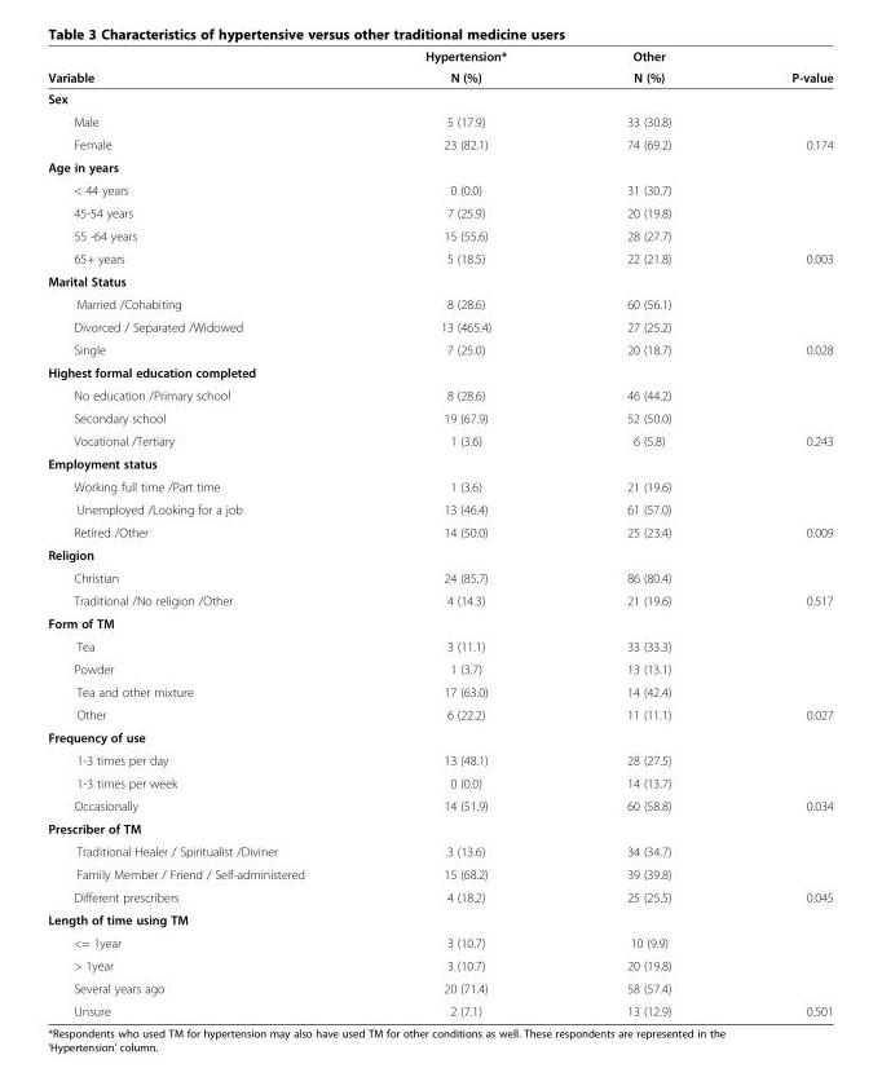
<table><thead><tr><td rowspan="2">Variable</td><td rowspan="2">Hypertension* N (%)</td><td rowspan="2">Other N (%)</td><td rowspan="2">P-value</td></tr><tr></tr></thead><tbody><tr><td colspan="4">Sex</td></tr><tr><td>Male</td><td>5 (17.9)</td><td>33 (30.8)</td><td></td></tr><tr><td>Female</td><td>23 (82.1)</td><td>74 (69.2)</td><td>0.174</td></tr><tr><td colspan="4">Age in years</td></tr><tr><td>&lt; 44 years</td><td>0 (0.0)</td><td>31 (30.7)</td><td></td></tr><tr><td>45-54 years</td><td>7 (25.9)</td><td>20 (19.8)</td><td></td></tr><tr><td>55 -64 years</td><td>15 (55.6)</td><td>28 (27.7)</td><td></td></tr><tr><td>65+ years</td><td>5 (18.5)</td><td>22 (21.8)</td><td>0.003</td></tr><tr><td colspan="4">Marital Status</td></tr><tr><td>Married /Cohabiting</td><td>8 (28.6)</td><td>60 (56.1)</td><td></td></tr><tr><td>Divorced / Separated /Widowed</td><td>13 (465.4)</td><td>27 (25.2)</td><td></td></tr><tr><td>Single</td><td>7 (25.0)</td><td>20 (18.7)</td><td>0.028</td></tr><tr><td colspan="4">Highest formal education completed</td></tr><tr><td>No education /Primary school</td><td>8 (28.6)</td><td>46 (44.2)</td><td></td></tr><tr><td>Secondary school</td><td>19 (67.9)</td><td>52 (50.0)</td><td></td></tr><tr><td>Vocational /Tertiary</td><td>1 (3.6)</td><td>6 (5.8)</td><td>0.243</td></tr><tr><td colspan="4">Employment status</td></tr><tr><td>Working full time /Part time</td><td>1 (3.6)</td><td>21 (19.6)</td><td></td></tr><tr><td>Unemployed /Looking for a job</td><td>13 (46.4)</td><td>61 (57.0)</td><td></td></tr><tr><td>Retired /Other</td><td>14 (50.0)</td><td>25 (23.4)</td><td>0.009</td></tr><tr><td colspan="4">Religion</td></tr><tr><td>Christian</td><td>24 (85.7)</td><td>86 (80.4)</td><td></td></tr><tr><td>Traditional /No religion /Other</td><td>4 (14.3)</td><td>21 (19.6)</td><td>0.517</td></tr><tr><td colspan="4">Form of TM</td></tr><tr><td>Tea</td><td>3 (11.1)</td><td>33 (33.3)</td><td></td></tr><tr><td>Powder</td><td>1 (3.7)</td><td>13 (13.1)</td><td></td></tr><tr><td>Tea and other mixture</td><td>17 (63.0)</td><td>14 (42.4)</td><td></td></tr><tr><td>Other</td><td>6 (22.2)</td><td>11 (11.1)</td><td>0.027</td></tr><tr><td colspan="4">Frequency of use</td></tr><tr><td>1-3 times per day</td><td>13 (48.1)</td><td>28 (27.5)</td><td></td></tr><tr><td>1-3 times per week</td><td>0 (0.0)</td><td>14 (13.7)</td><td></td></tr><tr><td>Occasionally</td><td>14 (51.9)</td><td>60 (58.8)</td><td>0.034</td></tr><tr><td colspan="4">Prescriber of TM</td></tr><tr><td>Traditional Healer / Spiritualist /Diviner</td><td>3 (13.6)</td><td>34 (34.7)</td><td></td></tr><tr><td>Family Member / Friend / Self-administered</td><td>15 (68.2)</td><td>39 (39.8)</td><td></td></tr><tr><td>Different prescribers</td><td>4 (18.2)</td><td>25 (25.5)</td><td>0.045</td></tr><tr><td colspan="4">Length of time using TM</td></tr><tr><td>&lt;= 1year</td><td>3 (10.7)</td><td>10 (9.9)</td><td></td></tr><tr><td>&gt; 1year</td><td>3 (10.7)</td><td>20 (19.8)</td><td></td></tr><tr><td>Several years ago</td><td>20 (71.4)</td><td>58 (57.4)</td><td></td></tr><tr><td>Unsure</td><td>2 (7.1)</td><td>13 (12.9)</td><td>0.501</td></tr></tbody></table>